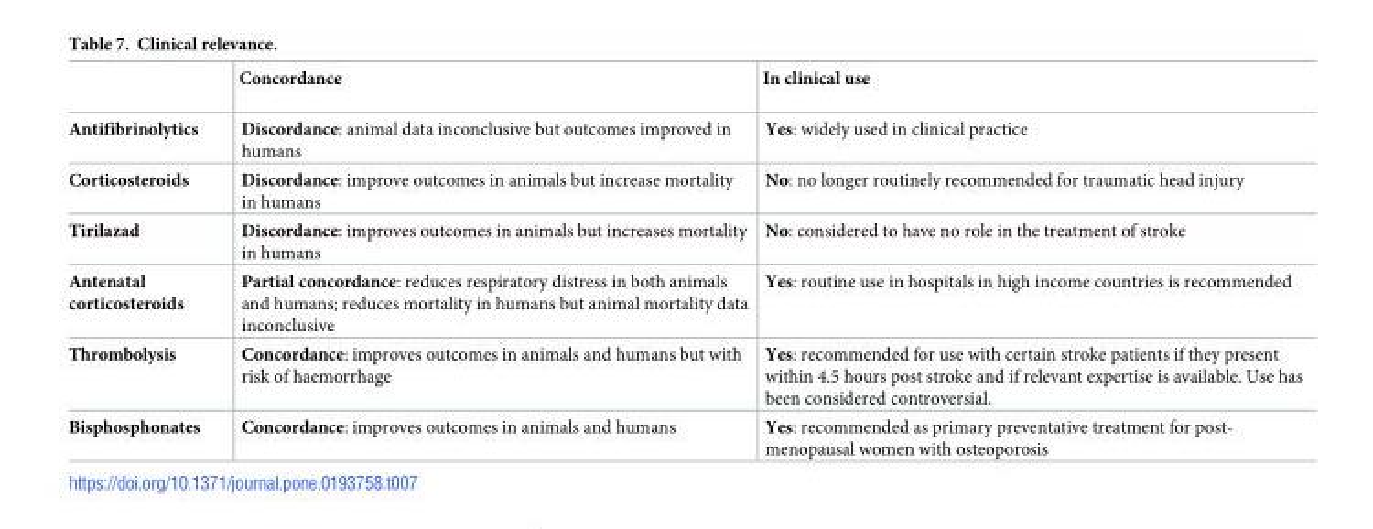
<table><thead><tr><td></td><td>Concordance</td><td>In clinical use</td></tr></thead><tbody><tr><td>Antifibrinolytics</td><td>Discordance: animal data inconclusive but outcomes improved in humans</td><td>Yes: widely used in clinical practice</td></tr><tr><td>Corticosteroids</td><td>Discordance: improve outcomes in animals but increase mortality in humans</td><td>No: no longer routinely recommended for traumatic head injury</td></tr><tr><td>Tirilazad</td><td>Discordance: improves outcomes in animals but increases mortality in humans</td><td>No: considered to have no role in the treatment of stroke</td></tr><tr><td>Antenatal corticosteroids</td><td>Partial concordance: reduces respiratory distress in both animals and humans; reduces mortality in humans but animal mortality data inconclusive</td><td>Yes: routine use in hospitals in high income countries is recommended</td></tr><tr><td>Thrombolysis</td><td>Concordance: improves outcomes in animals and humans but with risk of haemorrhage</td><td>Yes: recommended for use with certain stroke patients if they present within 4.5 hours post stroke and if relevant expertise is available. Use has been considered controversial.</td></tr><tr><td>Bisphosphonates</td><td>Concordance: improves outcomes in animals and humans</td><td>Yes: recommended as primary preventative treatment for post- menopausal women with osteoporosis</td></tr></tbody></table>